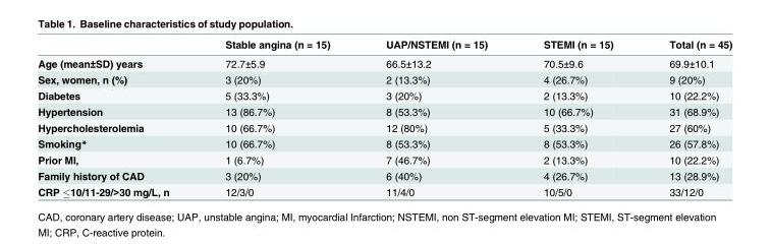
<table><thead><tr><td></td><td>Stable angina (n = 15)</td><td>UAP/NSTEMI (n = 15)</td><td>STEMI (n = 15)</td><td>Total (n = 45)</td></tr></thead><tbody><tr><td>Age (mean±SD) years</td><td>72.7±5.9</td><td>66.5±13.2</td><td>70.5±9.6</td><td>69.9±10.1</td></tr><tr><td>Sex, women, n (%)</td><td>3 (20%)</td><td>2 (13.3%)</td><td>4 (26.7%)</td><td>9 (20%)</td></tr><tr><td>Diabetes</td><td>5 (33.3%)</td><td>3 (20%)</td><td>2 (13.3%)</td><td>10 (22.2%)</td></tr><tr><td>Hypertension</td><td>13 (86.7%)</td><td>8 (53.3%)</td><td>10 (66.7%)</td><td>31 (68.9%)</td></tr><tr><td>Hypercholesterolemia</td><td>10 (66.7%)</td><td>12 (80%)</td><td>5 (33.3%)</td><td>27 (60%)</td></tr><tr><td>Smoking*</td><td>10 (66.7%)</td><td>8 (53.3%)</td><td>8 (53.3%)</td><td>26 (57.8%)</td></tr><tr><td>Prior MI,</td><td>1 (6.7%)</td><td>7 (46.7%)</td><td>2 (13.3%)</td><td>10 (22.2%)</td></tr><tr><td>Family history of CAD</td><td>3 (20%)</td><td>6 (40%)</td><td>4 (26.7%)</td><td>13 (28.9%)</td></tr><tr><td>CRP ≤10/11-29/&gt;30 mg/L, n</td><td>12/3/0</td><td>11/4/0</td><td>10/5/0</td><td>33/12/0</td></tr></tbody></table>